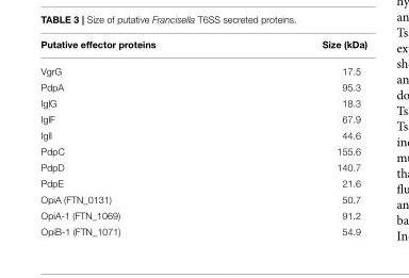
<table><thead><tr><td>Putative effector proteins</td><td>Size (kDa)</td></tr></thead><tbody><tr><td>VgrG</td><td>17.5</td></tr><tr><td>PdpA</td><td>95.3</td></tr><tr><td>IglG</td><td>18.3</td></tr><tr><td>IglF</td><td>67.9</td></tr><tr><td>IglI</td><td>44.6</td></tr><tr><td>PdpC</td><td>155.6</td></tr><tr><td>PdpD</td><td>140.7</td></tr><tr><td>PdpE</td><td>21.6</td></tr><tr><td>OpiA (FTN_0131)</td><td>50.7</td></tr><tr><td>OpiA-1 (FTN_1069)</td><td>91.2</td></tr><tr><td>OpiB-1 (FTN_1071)</td><td>54.9</td></tr></tbody></table>